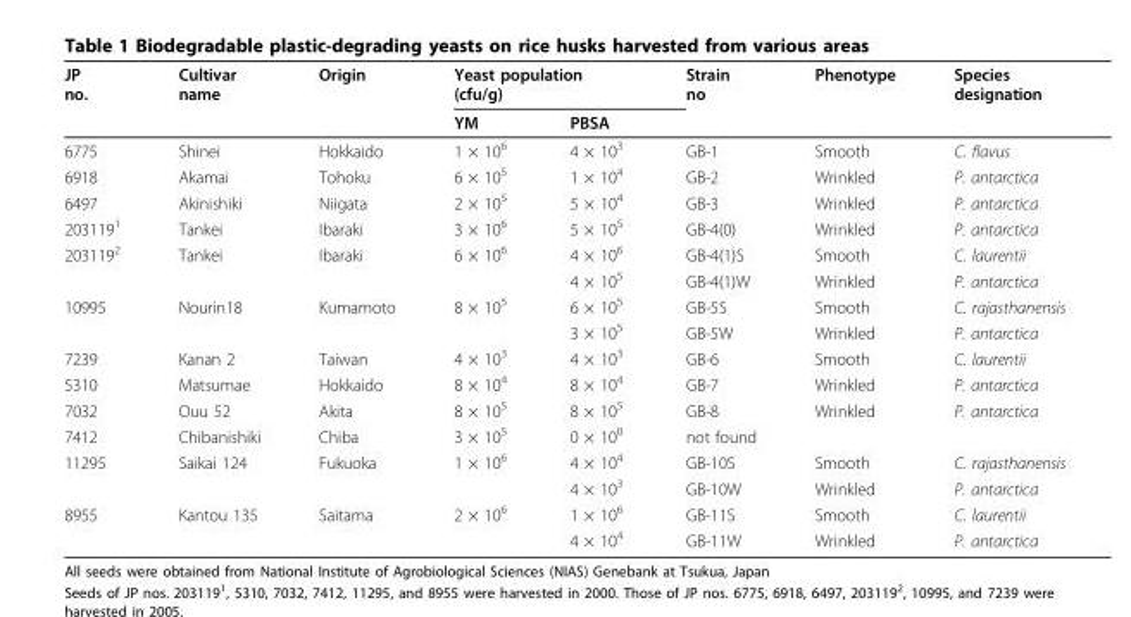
<table><thead><tr><td rowspan="2">JP no.</td><td rowspan="2">Cultivar name</td><td rowspan="2">Origin</td><td colspan="2">Yeast population (cfu/g)</td><td rowspan="2">Strain no</td><td rowspan="2">Phenotype</td><td rowspan="2">Species designation</td></tr><tr><td>YM</td><td>PBSA</td></tr></thead><tbody><tr><td>6775</td><td>Shinei</td><td>Hokkaido</td><td>1 × 10<sup>6</sup></td><td>4 × 10<sup>3</sup></td><td>GB-1</td><td>Smooth</td><td>C. flavus</td></tr><tr><td>6918</td><td>Akamai</td><td>Tohoku</td><td>6 × 10<sup>5</sup></td><td>1 × 10<sup>4</sup></td><td>GB-2</td><td>Wrinkled</td><td>P. antarctica</td></tr><tr><td>6497</td><td>Akinishiki</td><td>Niigata</td><td>2 × 10<sup>5</sup></td><td>5 × 10<sup>4</sup></td><td>GB-3</td><td>Wrinkled</td><td>P. antarctica</td></tr><tr><td>203119<sup>1</sup></td><td>Tankei</td><td>Ibaraki</td><td>3 × 10<sup>6</sup></td><td>5 × 10<sup>5</sup></td><td>GB-4(0)</td><td>Wrinkled</td><td>P. antarctica</td></tr><tr><td rowspan="2">203119<sup>2</sup></td><td>Tankei</td><td>Ibaraki</td><td>6 × 10<sup>6</sup></td><td>4 × 10<sup>6</sup></td><td>GB-4(1)S</td><td>Smooth</td><td>C. laurentii</td></tr><tr><td></td><td></td><td></td><td>4 × 10<sup>5</sup></td><td>GB-4(1)W</td><td>Wrinkled</td><td>P. antarctica</td></tr><tr><td rowspan="2">10995</td><td>Nourin18</td><td>Kumamoto</td><td>8 × 10<sup>5</sup></td><td>6 × 10<sup>5</sup></td><td>GB-5S</td><td>Smooth</td><td>C. rajasthanensis</td></tr><tr><td></td><td></td><td></td><td>3 × 10<sup>5</sup></td><td>GB-5W</td><td>Wrinkled</td><td>P. antarctica</td></tr><tr><td>7239</td><td>Kanan 2</td><td>Taiwan</td><td>4 × 10<sup>3</sup></td><td>4 × 10<sup>3</sup></td><td>GB-6</td><td>Smooth</td><td>C. laurentii</td></tr><tr><td>5310</td><td>Matsumae</td><td>Hokkaido</td><td>8 × 10<sup>4</sup></td><td>8 × 10<sup>4</sup></td><td>GB-7</td><td>Wrinkled</td><td>P. antarctica</td></tr><tr><td>7032</td><td>Ouu 52</td><td>Akita</td><td>8 × 10<sup>5</sup></td><td>8 × 10<sup>5</sup></td><td>GB-8</td><td>Wrinkled</td><td>P. antarctica</td></tr><tr><td>7412</td><td>Chibanishiki</td><td>Chiba</td><td>3 × 10<sup>5</sup></td><td>0 × 10<sup>0</sup></td><td>not found</td><td></td><td></td></tr><tr><td rowspan="2">11295</td><td>Saikai 124</td><td>Fukuoka</td><td>1 × 10<sup>6</sup></td><td>4 × 10<sup>4</sup></td><td>GB-10S</td><td>Smooth</td><td>C. rajasthanensis</td></tr><tr><td></td><td></td><td></td><td>4 × 10<sup>3</sup></td><td>GB-10W</td><td>Wrinkled</td><td>P. antarctica</td></tr><tr><td rowspan="2">8955</td><td>Kantou 135</td><td>Saitama</td><td>2 × 10<sup>6</sup></td><td>1 × 10<sup>6</sup></td><td>GB-11S</td><td>Smooth</td><td>C. laurentii</td></tr><tr><td></td><td></td><td></td><td>4 × 10<sup>4</sup></td><td>GB-11W</td><td>Wrinkled</td><td>P. antarctica</td></tr></tbody></table>